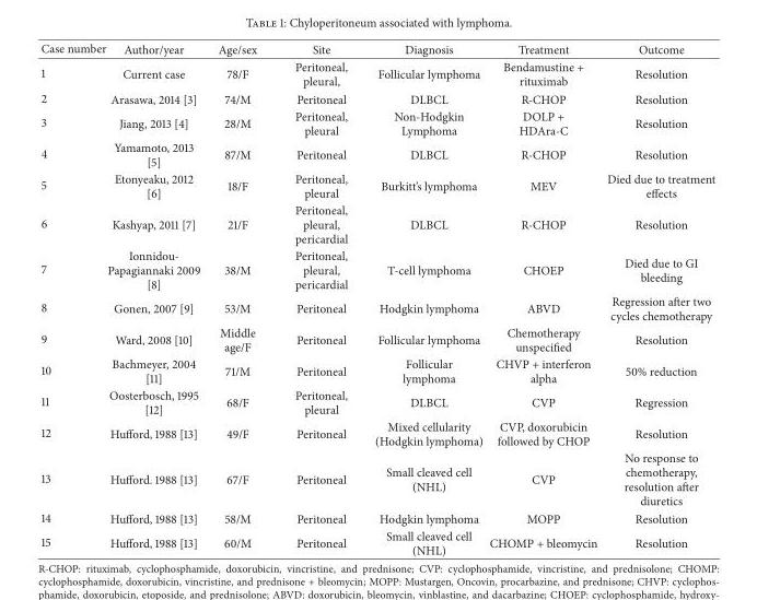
<table><thead><tr><td>Case number</td><td>Author/year</td><td>Age/sex</td><td>Site</td><td>Diagnosis</td><td>Treatment</td><td>Outcome</td></tr></thead><tbody><tr><td>1</td><td>Current case</td><td>78/F</td><td>Peritoneal, pleural,</td><td>Follicular lymphoma</td><td>Bendamustine + rituximab</td><td>Resolution</td></tr><tr><td>2</td><td>Arasawa, 2014 [3]</td><td>74/M</td><td>Peritoneal</td><td>DLBCL</td><td>R-CHOP</td><td>Resolution</td></tr><tr><td>3</td><td>Jiang, 2013 [4]</td><td>28/M</td><td>Peritoneal, pleural</td><td>Non-Hodgkin Lymphoma</td><td>DOLP + HDAra-C</td><td>Resolution</td></tr><tr><td>4</td><td>Yamamoto, 2013 [5]</td><td>87/M</td><td>Peritoneal</td><td>DLBCL</td><td>R-CHOP</td><td>Resolution</td></tr><tr><td>5</td><td>Etonyeaku, 2012 [6]</td><td>18/F</td><td>Peritoneal, pleural</td><td>Burkitt’s lymphoma</td><td>MEV</td><td>Died due to treatment effects</td></tr><tr><td>6</td><td>Kashyap, 2011 [7]</td><td>21/F</td><td>Peritoneal, pleural, pericardial</td><td>DLBCL</td><td>R-CHOP</td><td>Resolution</td></tr><tr><td>7</td><td>Ionnidou- Papagiannaki 2009 [8]</td><td>38/M</td><td>Peritoneal, pleural, pericardial</td><td>T-cell lymphoma</td><td>CHOEP</td><td>Died due to GI bleeding</td></tr><tr><td>8</td><td>Gonen, 2007 [9]</td><td>53/M</td><td>Peritoneal</td><td>Hodgkin lymphoma</td><td>ABVD</td><td>Regression after two cycles chemotherapy</td></tr><tr><td>9</td><td>Ward, 2008 [10]</td><td>Middle age/F</td><td>Peritoneal</td><td>Follicular lymphoma</td><td>Chemotherapy unspecified</td><td>Resolution</td></tr><tr><td>10</td><td>Bachmeyer, 2004 [11]</td><td>71/M</td><td>Peritoneal</td><td>Follicular lymphoma</td><td>CHVP + interferon alpha</td><td>50% reduction</td></tr><tr><td>11</td><td>Oosterbosch, 1995 [12]</td><td>68/F</td><td>Peritoneal, pleural</td><td>DLBCL</td><td>CVP</td><td>Regression</td></tr><tr><td>12</td><td>Hufford, 1988 [13]</td><td>49/F</td><td>Peritoneal</td><td>Mixed cellularity (Hodgkin lymphoma)</td><td>CVP, doxorubicin followed by CHOP</td><td>Resolution</td></tr><tr><td>13</td><td>Hufford. 1988 [13]</td><td>67/F</td><td>Peritoneal</td><td>Small cleaved cell (NHL)</td><td>CVP</td><td>No response to chemotherapy, resolution after diuretics</td></tr><tr><td>14</td><td>Hufford, 1988 [13]</td><td>58/M</td><td>Peritoneal</td><td>Hodgkin lymphoma</td><td>MOPP</td><td>Resolution</td></tr><tr><td>15</td><td>Hufford, 1988 [13]</td><td>60/M</td><td>Peritoneal</td><td>Small cleaved cell (NHL)</td><td>CHOMP + bleomycin</td><td>Resolution</td></tr></tbody></table>